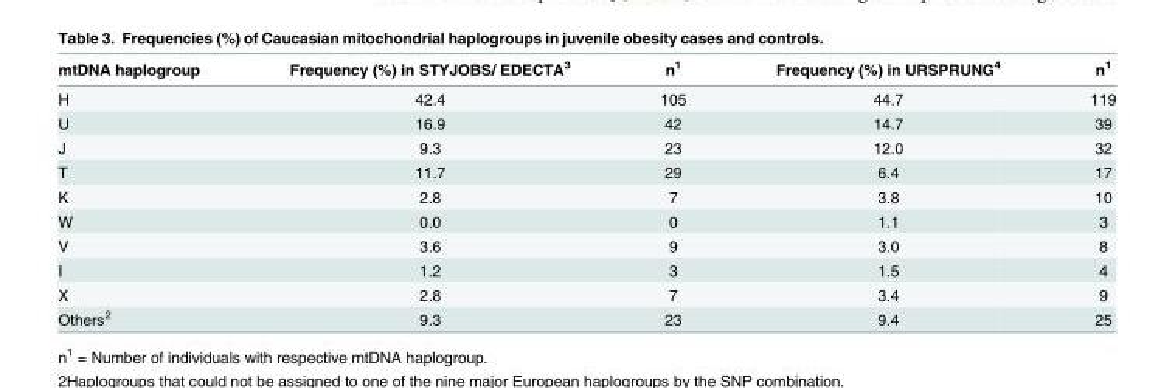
<table><thead><tr><td>mtDNA haplogroup</td><td>Frequency (%) in STYJOBS/ EDECTA<sup>3</sup></td><td>n<sup>1</sup></td><td>Frequency (%) in URSPRUNG<sup>4</sup></td><td>n<sup>1</sup></td></tr></thead><tbody><tr><td>H</td><td>42.4</td><td>105</td><td>44.7</td><td>119</td></tr><tr><td>U</td><td>16.9</td><td>42</td><td>14.7</td><td>39</td></tr><tr><td>J</td><td>9.3</td><td>23</td><td>12.0</td><td>32</td></tr><tr><td>T</td><td>11.7</td><td>29</td><td>6.4</td><td>17</td></tr><tr><td>K</td><td>2.8</td><td>7</td><td>3.8</td><td>10</td></tr><tr><td>W</td><td>0.0</td><td>0</td><td>1.1</td><td>3</td></tr><tr><td>V</td><td>3.6</td><td>9</td><td>3.0</td><td>8</td></tr><tr><td>I</td><td>1.2</td><td>3</td><td>1.5</td><td>4</td></tr><tr><td>X</td><td>2.8</td><td>7</td><td>3.4</td><td>9</td></tr><tr><td>Others<sup>2</sup></td><td>9.3</td><td>23</td><td>9.4</td><td>25</td></tr></tbody></table>